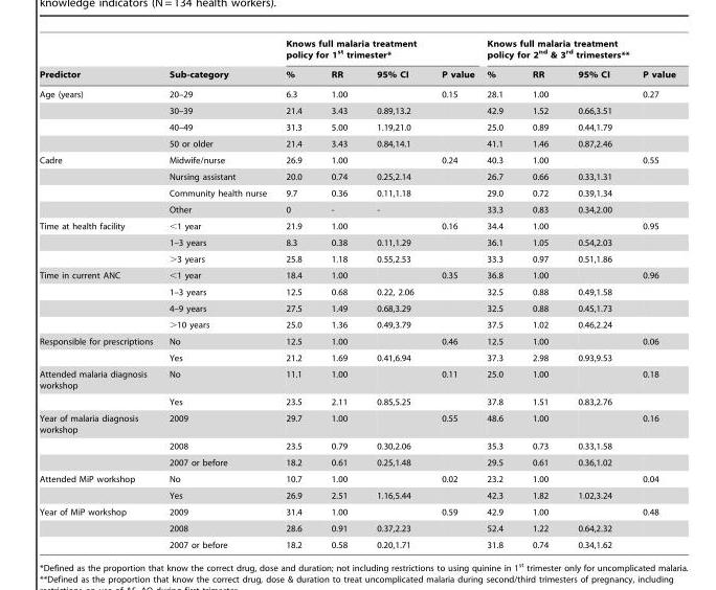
<table><thead><tr><td rowspan="2">Predictor</td><td rowspan="2">Sub-category</td><td colspan="4">Knows full malaria treatment policy for 1<sup>st</sup> trimester*</td><td colspan="4">Knows full malaria treatment policy for 2<sup>nd</sup> &amp; 3<sup>rd</sup> trimesters**</td></tr><tr><td>%</td><td>RR</td><td>95% CI</td><td>P value</td><td>%</td><td>RR</td><td>95% CI</td><td>P value</td></tr></thead><tbody><tr><td rowspan="4">Age (years)</td><td>20–29</td><td>6.3</td><td>1.00</td><td></td><td>0.15</td><td>28.1</td><td>1.00</td><td></td><td>0.27</td></tr><tr><td>30–39</td><td>21.4</td><td>3.43</td><td>0.89,13.2</td><td></td><td>42.9</td><td>1.52</td><td>0.66,3.51</td><td></td></tr><tr><td>40–49</td><td>31.3</td><td>5.00</td><td>1.19,21.0</td><td></td><td>25.0</td><td>0.89</td><td>0.44,1.79</td><td></td></tr><tr><td>50 or older</td><td>21.4</td><td>3.43</td><td>0.84,14.1</td><td></td><td>41.1</td><td>1.46</td><td>0.87,2.46</td><td></td></tr><tr><td rowspan="4">Cadre</td><td>Midwife/nurse</td><td>26.9</td><td>1.00</td><td></td><td>0.24</td><td>40.3</td><td>1.00</td><td></td><td>0.55</td></tr><tr><td>Nursing assistant</td><td>20.0</td><td>0.74</td><td>0.25,2.14</td><td></td><td>26.7</td><td>0.66</td><td>0.33,1.31</td><td></td></tr><tr><td>Community health nurse</td><td>9.7</td><td>0.36</td><td>0.11,1.18</td><td></td><td>29.0</td><td>0.72</td><td>0.39,1.34</td><td></td></tr><tr><td>Other</td><td>0</td><td>-</td><td>-</td><td></td><td>33.3</td><td>0.83</td><td>0.34,2.00</td><td></td></tr><tr><td rowspan="3">Time at health facility</td><td>&lt;1 year</td><td>21.9</td><td>1.00</td><td></td><td>0.16</td><td>34.4</td><td>1.00</td><td></td><td>0.95</td></tr><tr><td>1–3 years</td><td>8.3</td><td>0.38</td><td>0.11,1.29</td><td></td><td>36.1</td><td>1.05</td><td>0.54,2.03</td><td></td></tr><tr><td>&gt;3 years</td><td>25.8</td><td>1.18</td><td>0.55,2.53</td><td></td><td>33.3</td><td>0.97</td><td>0.51,1.86</td><td></td></tr><tr><td rowspan="4">Time in current ANC</td><td>&lt;1 year</td><td>18.4</td><td>1.00</td><td></td><td>0.35</td><td>36.8</td><td>1.00</td><td></td><td>0.96</td></tr><tr><td>1–3 years</td><td>12.5</td><td>0.68</td><td>0.22, 2.06</td><td></td><td>32.5</td><td>0.88</td><td>0.49,1.58</td><td></td></tr><tr><td>4–9 years</td><td>27.5</td><td>1.49</td><td>0.68,3.29</td><td></td><td>32.5</td><td>0.88</td><td>0.45,1.73</td><td></td></tr><tr><td>&gt;10 years</td><td>25.0</td><td>1.36</td><td>0.49,3.79</td><td></td><td>37.5</td><td>1.02</td><td>0.46,2.24</td><td></td></tr><tr><td rowspan="2">Responsible for prescriptions</td><td>No</td><td>12.5</td><td>1.00</td><td></td><td>0.46</td><td>12.5</td><td>1.00</td><td></td><td>0.06</td></tr><tr><td>Yes</td><td>21.2</td><td>1.69</td><td>0.41,6.94</td><td></td><td>37.3</td><td>2.98</td><td>0.93,9.53</td><td></td></tr><tr><td rowspan="2">Attended malaria diagnosis workshop</td><td>No</td><td>11.1</td><td>1.00</td><td></td><td>0.11</td><td>25.0</td><td>1.00</td><td></td><td>0.18</td></tr><tr><td>Yes</td><td>23.5</td><td>2.11</td><td>0.85,5.25</td><td></td><td>37.8</td><td>1.51</td><td>0.83,2.76</td><td></td></tr><tr><td rowspan="3">Year of malaria diagnosis workshop</td><td>2009</td><td>29.7</td><td>1.00</td><td></td><td>0.55</td><td>48.6</td><td>1.00</td><td></td><td>0.16</td></tr><tr><td>2008</td><td>23.5</td><td>0.79</td><td>0.30,2.06</td><td></td><td>35.3</td><td>0.73</td><td>0.33,1.58</td><td></td></tr><tr><td>2007 or before</td><td>18.2</td><td>0.61</td><td>0.25,1.48</td><td></td><td>29.5</td><td>0.61</td><td>0.36,1.02</td><td></td></tr><tr><td rowspan="2">Attended MiP workshop</td><td>No</td><td>10.7</td><td>1.00</td><td></td><td>0.02</td><td>23.2</td><td>1.00</td><td></td><td>0.04</td></tr><tr><td>Yes</td><td>26.9</td><td>2.51</td><td>1.16,5.44</td><td></td><td>42.3</td><td>1.82</td><td>1.02,3.24</td><td></td></tr><tr><td rowspan="3">Year of MiP workshop</td><td>2009</td><td>31.4</td><td>1.00</td><td></td><td>0.59</td><td>42.9</td><td>1.00</td><td></td><td>0.48</td></tr><tr><td>2008</td><td>28.6</td><td>0.91</td><td>0.37,2.23</td><td></td><td>52.4</td><td>1.22</td><td>0.64,2.32</td><td></td></tr><tr><td>2007 or before</td><td>18.2</td><td>0.58</td><td>0.20,1.71</td><td></td><td>31.8</td><td>0.74</td><td>0.34,1.62</td><td></td></tr></tbody></table>